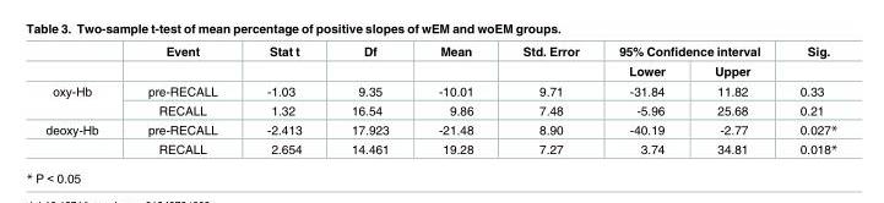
<table><thead><tr><td rowspan="2"></td><td rowspan="2">Event</td><td rowspan="2">Stat t</td><td rowspan="2">Df</td><td rowspan="2">Mean</td><td rowspan="2">Std. Error</td><td colspan="2">95% Confidence interval</td><td rowspan="2">Sig.</td></tr><tr><td>Lower</td><td>Upper</td></tr></thead><tbody><tr><td rowspan="2">oxy-Hb</td><td>pre-RECALL</td><td>-1.03</td><td>9.35</td><td>-10.01</td><td>9.71</td><td>-31.84</td><td>11.82</td><td>0.33</td></tr><tr><td>RECALL</td><td>1.32</td><td>16.54</td><td>9.86</td><td>7.48</td><td>-5.96</td><td>25.68</td><td>0.21</td></tr><tr><td rowspan="2">deoxy-Hb</td><td>pre-RECALL</td><td>-2.413</td><td>17.923</td><td>-21.48</td><td>8.90</td><td>-40.19</td><td>-2.77</td><td>0.027*</td></tr><tr><td>RECALL</td><td>2.654</td><td>14.461</td><td>19.28</td><td>7.27</td><td>3.74</td><td>34.81</td><td>0.018*</td></tr></tbody></table>